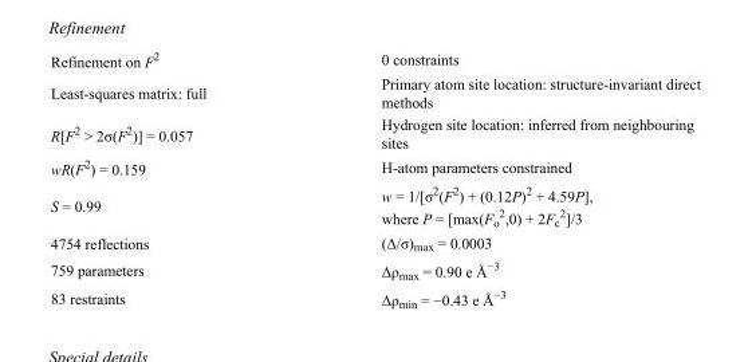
<table><tbody><tr><td>Refinement on F<sup>2</sup></td><td>0 constraints</td></tr><tr><td>Least-squares matrix: full</td><td>Primary atom site location: structure-invariant direct methods</td></tr><tr><td>R[F<sup>2</sup> &gt; 2σ(F<sup>2</sup>)] = 0.057</td><td>Hydrogen site location: inferred from neighbouring sites</td></tr><tr><td>wR(F<sup>2</sup>) = 0.159</td><td>H-atom parameters constrained</td></tr><tr><td>S = 0.99</td><td>w = 1/[σ<sup>2</sup>(F<sup>2</sup>) + (0.12P)<sup>2</sup> + 4.59P], where P = [max(F<sub>o</sub> <sup>2</sup>,0) + 2F<sub>c</sub> <sup>2</sup>]/3</td></tr><tr><td>4754 reflections</td><td>(Δ/σ)<sub>max</sub> = 0.0003</td></tr><tr><td>759 parameters</td><td>Δρ<sub>max</sub> = 0.90 e Å<sup>−3</sup></td></tr><tr><td>83 restraints</td><td>Δρ<sub>min</sub> = −0.43 e Å<sup>−3</sup></td></tr></tbody></table>